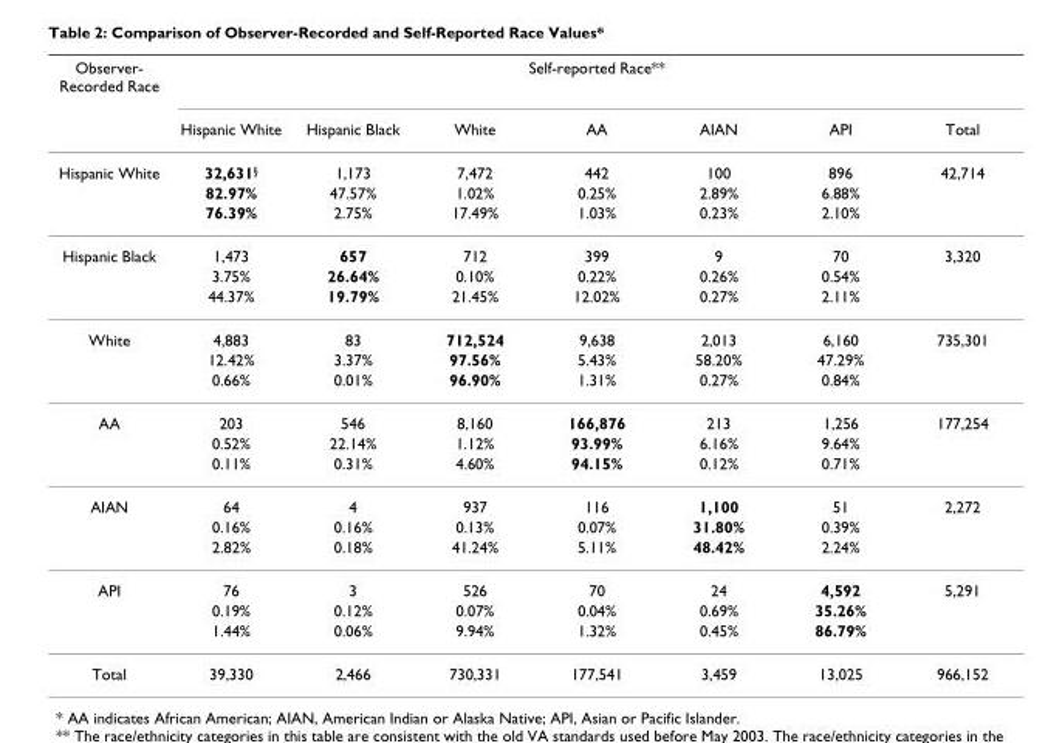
<table><thead><tr><td rowspan="2">Observer- Recorded Race</td><td colspan="7">Self-reported Race**</td></tr><tr><td>Hispanic White</td><td>Hispanic Black</td><td>White</td><td>AA</td><td>AIAN</td><td>API</td><td>Total</td></tr></thead><tbody><tr><td rowspan="3">Hispanic White</td><td>32,631<sup>§</sup></td><td>1,173</td><td>7,472</td><td>442</td><td>100</td><td>896</td><td>42,714</td></tr><tr><td>82.97%</td><td>47.57%</td><td>1.02%</td><td>0.25%</td><td>2.89%</td><td>6.88%</td><td></td></tr><tr><td>76.39%</td><td>2.75%</td><td>17.49%</td><td>1.03%</td><td>0.23%</td><td>2.10%</td><td></td></tr><tr><td rowspan="3">Hispanic Black</td><td>1,473</td><td>657</td><td>712</td><td>399</td><td>9</td><td>70</td><td>3,320</td></tr><tr><td>3.75%</td><td>26.64%</td><td>0.10%</td><td>0.22%</td><td>0.26%</td><td>0.54%</td><td></td></tr><tr><td>44.37%</td><td>19.79%</td><td>21.45%</td><td>12.02%</td><td>0.27%</td><td>2.11%</td><td></td></tr><tr><td rowspan="3">White</td><td>4,883</td><td>83</td><td>712,524</td><td>9,638</td><td>2,013</td><td>6,160</td><td>735,301</td></tr><tr><td>12.42%</td><td>3.37%</td><td>97.56%</td><td>5.43%</td><td>58.20%</td><td>47.29%</td><td></td></tr><tr><td>0.66%</td><td>0.01%</td><td>96.90%</td><td>1.31%</td><td>0.27%</td><td>0.84%</td><td></td></tr><tr><td rowspan="3">AA</td><td>203</td><td>546</td><td>8,160</td><td>166,876</td><td>213</td><td>1,256</td><td>177,254</td></tr><tr><td>0.52%</td><td>22.14%</td><td>1.12%</td><td>93.99%</td><td>6.16%</td><td>9.64%</td><td></td></tr><tr><td>0.11%</td><td>0.31%</td><td>4.60%</td><td>94.15%</td><td>0.12%</td><td>0.71%</td><td></td></tr><tr><td rowspan="3">AIAN</td><td>64</td><td>4</td><td>937</td><td>116</td><td>1,100</td><td>51</td><td>2,272</td></tr><tr><td>0.16%</td><td>0.16%</td><td>0.13%</td><td>0.07%</td><td>31.80%</td><td>0.39%</td><td></td></tr><tr><td>2.82%</td><td>0.18%</td><td>41.24%</td><td>5.11%</td><td>48.42%</td><td>2.24%</td><td></td></tr><tr><td rowspan="3">API</td><td>76</td><td>3</td><td>526</td><td>70</td><td>24</td><td>4,592</td><td>5,291</td></tr><tr><td>0.19%</td><td>0.12%</td><td>0.07%</td><td>0.04%</td><td>0.69%</td><td>35.26%</td><td></td></tr><tr><td>1.44%</td><td>0.06%</td><td>9.94%</td><td>1.32%</td><td>0.45%</td><td>86.79%</td><td></td></tr><tr><td>Total</td><td>39,330</td><td>2,466</td><td>730,331</td><td>177,541</td><td>3,459</td><td>13,025</td><td>966,152</td></tr></tbody></table>